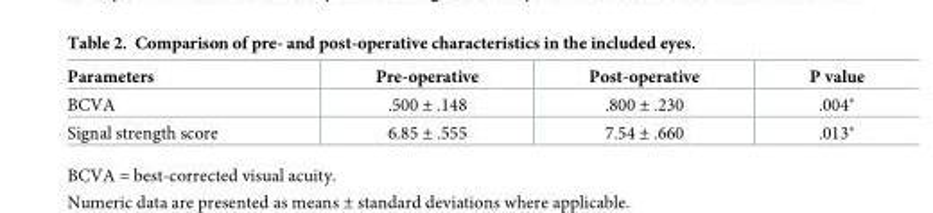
<table><thead><tr><td>Parameters</td><td>Pre-operative</td><td>Post-operative</td><td>P value</td></tr></thead><tbody><tr><td>BCVA</td><td>.500 ± .148</td><td>.800 ± .230</td><td>.004*</td></tr><tr><td>Signal strength score</td><td>6.85 ± .555</td><td>7.54 ± .660</td><td>.013*</td></tr></tbody></table>